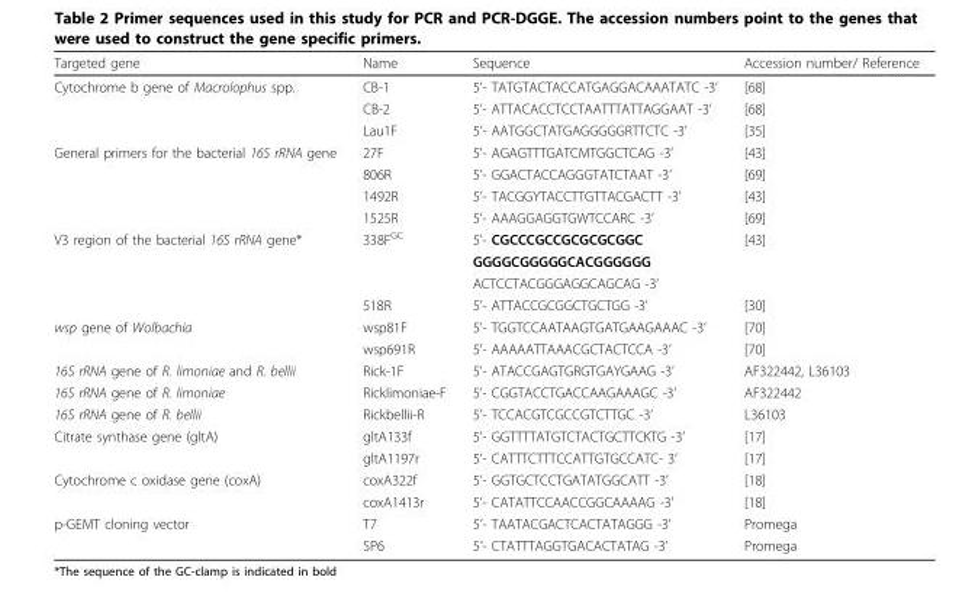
<table><thead><tr><td>Targeted gene</td><td>Name</td><td>Sequence</td><td>Accession number/ Reference</td></tr></thead><tbody><tr><td rowspan="3">Cytochrome b gene of Macrolophus spp.</td><td>CB-1</td><td>5’- TATGTACTACCATGAGGACAAATATC -3’</td><td>[68]</td></tr><tr><td>CB-2</td><td>5’- ATTACACCTCCTAATTTATTAGGAAT -3’</td><td>[68]</td></tr><tr><td>Lau1F</td><td>5’- AATGGCTATGAGGGGGRTTCTC -3’</td><td>[35]</td></tr><tr><td rowspan="4">General primers for the bacterial 16S rRNA gene</td><td>27F</td><td>5’- AGAGTTTGATCMTGGCTCAG -3’</td><td>[43]</td></tr><tr><td>806R</td><td>5’- GGACTACCAGGGTATCTAAT -3’</td><td>[69]</td></tr><tr><td>1492R</td><td>5’- TACGGYTACCTTGTTACGACTT -3’</td><td>[43]</td></tr><tr><td>1525R</td><td>5’- AAAGGAGGTGWTCCARC -3’</td><td>[69]</td></tr><tr><td rowspan="4">V3 region of the bacterial 16S rRNA gene*</td><td>338F<sup>GC</sup></td><td>5’- CGCCCGCCGCGCGCGGC</td><td>[43]</td></tr><tr><td></td><td>GGGGCGGGGGCACGGGGGG</td><td></td></tr><tr><td></td><td>ACTCCTACGGGAGGCAGCAG -3’</td><td></td></tr><tr><td>518R</td><td>5’- ATTACCGCGGCTGCTGG -3’</td><td>[30]</td></tr><tr><td rowspan="2">wsp gene of Wolbachia</td><td>wsp81F</td><td>5’- TGGTCCAATAAGTGATGAAGAAAC -3’</td><td>[70]</td></tr><tr><td>wsp691R</td><td>5’- AAAAATTAAACGCTACTCCA -3’</td><td>[70]</td></tr><tr><td>16S rRNA gene of R. limoniae and R. bellii</td><td>Rick-1F</td><td>5’- ATACCGAGTGRGTGAYGAAG -3’</td><td>AF322442, L36103</td></tr><tr><td>16S rRNA gene of R. limoniae</td><td>Ricklimoniae-F</td><td>5’- CGGTACCTGACCAAGAAAGC -3’</td><td>AF322442</td></tr><tr><td>16S rRNA gene of R. bellii</td><td>Rickbellii-R</td><td>5’- TCCACGTCGCCGTCTTGC -3’</td><td>L36103</td></tr><tr><td rowspan="2">Citrate synthase gene (gltA)</td><td>gltA133f</td><td>5’- GGTTTTATGTCTACTGCTTCKTG -3’</td><td>[17]</td></tr><tr><td>gltA1197r</td><td>5’- CATTTCTTTCCATTGTGCCATC- 3’</td><td>[17]</td></tr><tr><td rowspan="2">Cytochrome c oxidase gene (coxA)</td><td>coxA322f</td><td>5’- GGTGCTCCTGATATGGCATT -3’</td><td>[18]</td></tr><tr><td>coxA1413r</td><td>5’- CATATTCCAACCGGCAAAAG -3’</td><td>[18]</td></tr><tr><td rowspan="2">p-GEMT cloning vector</td><td>T7</td><td>5’- TAATACGACTCACTATAGGG -3’</td><td>Promega</td></tr><tr><td>SP6</td><td>5’- CTATTTAGGTGACACTATAG -3’</td><td>Promega</td></tr></tbody></table>